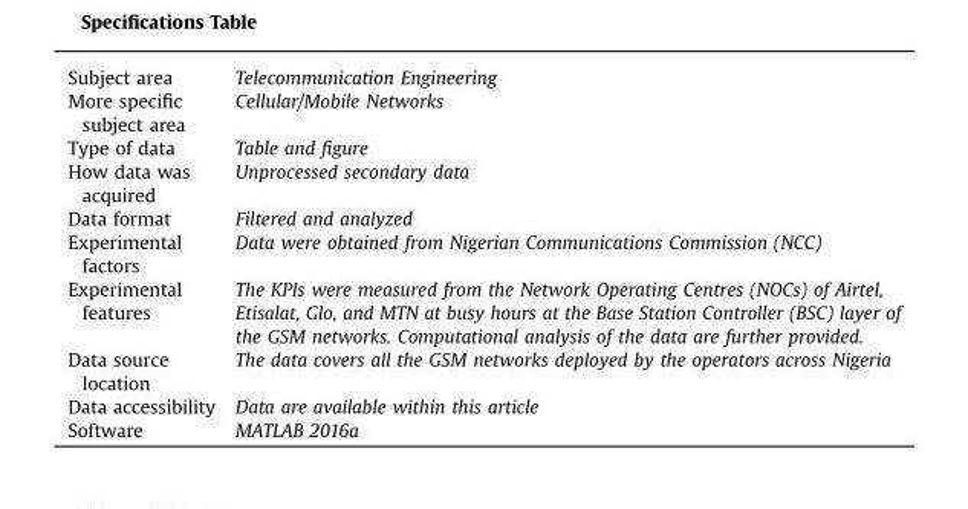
<table><tbody><tr><td>Subject area</td><td>Telecommunication Engineering</td></tr><tr><td>More specific subject area</td><td>Cellular/Mobile Networks</td></tr><tr><td>Type of data</td><td>Table and figure</td></tr><tr><td>How data was acquired</td><td>Unprocessed secondary data</td></tr><tr><td>Data format</td><td>Filtered and analyzed</td></tr><tr><td>Experimental factors</td><td>Data were obtained from Nigerian Communications Commission (NCC)</td></tr><tr><td>Experimental features</td><td>The KPIs were measured from the Network Operating Centres (NOCs) of Airtel, Etisalat, Glo, and MTN at busy hours at the Base Station Controller (BSC) layer of the GSM networks. Computational analysis of the data are further provided.</td></tr><tr><td>Data source location</td><td>The data covers all the GSM networks deployed by the operators across Nigeria</td></tr><tr><td>Data accessibility</td><td>Data are available within this article</td></tr><tr><td>Software</td><td>MATLAB 2016a</td></tr></tbody></table>